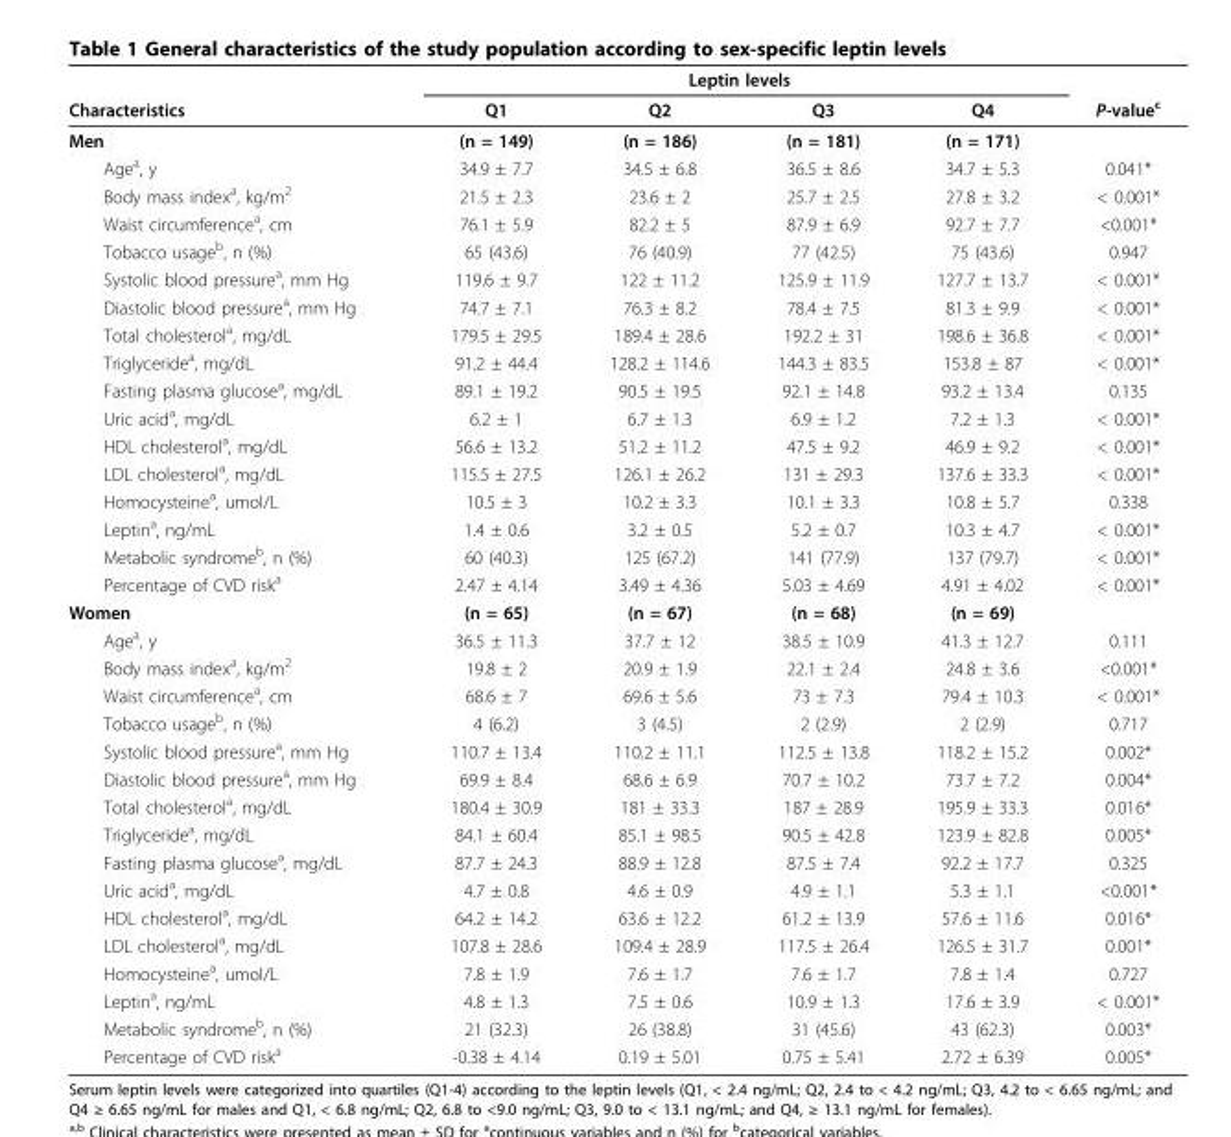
<table><thead><tr><td rowspan="2">Characteristics</td><td colspan="4">Leptin levels</td><td rowspan="2">P-value<sup>c</sup></td></tr><tr><td>Q1</td><td>Q2</td><td>Q3</td><td>Q4</td></tr></thead><tbody><tr><td>Men</td><td>(n = 149)</td><td>(n = 186)</td><td>(n = 181)</td><td>(n = 171)</td><td></td></tr><tr><td>Age<sup>a</sup>, y</td><td>34.9 ± 7.7</td><td>34.5 ± 6.8</td><td>36.5 ± 8.6</td><td>34.7 ± 5.3</td><td>0.041*</td></tr><tr><td>Body mass index<sup>a</sup>, kg/m<sup>2</sup></td><td>21.5 ± 2.3</td><td>23.6 ± 2</td><td>25.7 ± 2.5</td><td>27.8 ± 3.2</td><td>&lt; 0.001*</td></tr><tr><td>Waist circumference<sup>a</sup>, cm</td><td>76.1 ± 5.9</td><td>82.2 ± 5</td><td>87.9 ± 6.9</td><td>92.7 ± 7.7</td><td>&lt;0.001*</td></tr><tr><td>Tobacco usage<sup>b</sup>, n (%)</td><td>65 (43.6)</td><td>76 (40.9)</td><td>77 (42.5)</td><td>75 (43.6)</td><td>0.947</td></tr><tr><td>Systolic blood pressure<sup>a</sup>, mm Hg</td><td>119.6 ± 9.7</td><td>122 ± 11.2</td><td>125.9 ± 11.9</td><td>127.7 ± 13.7</td><td>&lt; 0.001*</td></tr><tr><td>Diastolic blood pressure<sup>a</sup>, mm Hg</td><td>74.7 ± 7.1</td><td>76.3 ± 8.2</td><td>78.4 ± 7.5</td><td>81.3 ± 9.9</td><td>&lt; 0.001*</td></tr><tr><td>Total cholesterol<sup>a</sup>, mg/dL</td><td>179.5 ± 29.5</td><td>189.4 ± 28.6</td><td>192.2 ± 31</td><td>198.6 ± 36.8</td><td>&lt; 0.001*</td></tr><tr><td>Triglyceride<sup>a</sup>, mg/dL</td><td>91.2 ± 44.4</td><td>128.2 ± 114.6</td><td>144.3 ± 83.5</td><td>153.8 ± 87</td><td>&lt; 0.001*</td></tr><tr><td>Fasting plasma glucose<sup>a</sup>, mg/dL</td><td>89.1 ± 19.2</td><td>90.5 ± 19.5</td><td>92.1 ± 14.8</td><td>93.2 ± 13.4</td><td>0.135</td></tr><tr><td>Uric acid<sup>a</sup>, mg/dL</td><td>6.2 ± 1</td><td>6.7 ± 1.3</td><td>6.9 ± 1.2</td><td>7.2 ± 1.3</td><td>&lt; 0.001*</td></tr><tr><td>HDL cholesterol<sup>a</sup>, mg/dL</td><td>56.6 ± 13.2</td><td>51.2 ± 11.2</td><td>47.5 ± 9.2</td><td>46.9 ± 9.2</td><td>&lt; 0.001*</td></tr><tr><td>LDL cholesterol<sup>a</sup>, mg/dL</td><td>115.5 ± 27.5</td><td>126.1 ± 26.2</td><td>131 ± 29.3</td><td>137.6 ± 33.3</td><td>&lt; 0.001*</td></tr><tr><td>Homocysteine<sup>a</sup>, umol/L</td><td>10.5 ± 3</td><td>10.2 ± 3.3</td><td>10.1 ± 3.3</td><td>10.8 ± 5.7</td><td>0.338</td></tr><tr><td>Leptin<sup>a</sup>, ng/mL</td><td>1.4 ± 0.6</td><td>3.2 ± 0.5</td><td>5.2 ± 0.7</td><td>10.3 ± 4.7</td><td>&lt; 0.001*</td></tr><tr><td>Metabolic syndrome<sup>b</sup>, n (%)</td><td>60 (40.3)</td><td>125 (67.2)</td><td>141 (77.9)</td><td>137 (79.7)</td><td>&lt; 0.001*</td></tr><tr><td>Percentage of CVD risk<sup>a</sup></td><td>2.47 ± 4.14</td><td>3.49 ± 4.36</td><td>5.03 ± 4.69</td><td>4.91 ± 4.02</td><td>&lt; 0.001*</td></tr><tr><td>Women</td><td>(n = 65)</td><td>(n = 67)</td><td>(n = 68)</td><td>(n = 69)</td><td></td></tr><tr><td>Age<sup>a</sup>, y</td><td>36.5 ± 11.3</td><td>37.7 ± 12</td><td>38.5 ± 10.9</td><td>41.3 ± 12.7</td><td>0.111</td></tr><tr><td>Body mass index<sup>a</sup>, kg/m<sup>2</sup></td><td>19.8 ± 2</td><td>20.9 ± 1.9</td><td>22.1 ± 2.4</td><td>24.8 ± 3.6</td><td>&lt;0.001*</td></tr><tr><td>Waist circumference<sup>a</sup>, cm</td><td>68.6 ± 7</td><td>69.6 ± 5.6</td><td>73 ± 7.3</td><td>79.4 ± 10.3</td><td>&lt; 0.001*</td></tr><tr><td>Tobacco usage<sup>b</sup>, n (%)</td><td>4 (6.2)</td><td>3 (4.5)</td><td>2 (2.9)</td><td>2 (2.9)</td><td>0.717</td></tr><tr><td>Systolic blood pressure<sup>a</sup>, mm Hg</td><td>110.7 ± 13.4</td><td>110.2 ± 11.1</td><td>112.5 ± 13.8</td><td>118.2 ± 15.2</td><td>0.002*</td></tr><tr><td>Diastolic blood pressure<sup>a</sup>, mm Hg</td><td>69.9 ± 8.4</td><td>68.6 ± 6.9</td><td>70.7 ± 10.2</td><td>73.7 ± 7.2</td><td>0.004*</td></tr><tr><td>Total cholesterol<sup>a</sup>, mg/dL</td><td>180.4 ± 30.9</td><td>181 ± 33.3</td><td>187 ± 28.9</td><td>195.9 ± 33.3</td><td>0.016*</td></tr><tr><td>Triglyceride<sup>a</sup>, mg/dL</td><td>84.1 ± 60.4</td><td>85.1 ± 98.5</td><td>90.5 ± 42.8</td><td>123.9 ± 82.8</td><td>0.005*</td></tr><tr><td>Fasting plasma glucose<sup>a</sup>, mg/dL</td><td>87.7 ± 24.3</td><td>88.9 ± 12.8</td><td>87.5 ± 7.4</td><td>92.2 ± 17.7</td><td>0.325</td></tr><tr><td>Uric acid<sup>a</sup>, mg/dL</td><td>4.7 ± 0.8</td><td>4.6 ± 0.9</td><td>4.9 ± 1.1</td><td>5.3 ± 1.1</td><td>&lt;0.001*</td></tr><tr><td>HDL cholesterol<sup>a</sup>, mg/dL</td><td>64.2 ± 14.2</td><td>63.6 ± 12.2</td><td>61.2 ± 13.9</td><td>57.6 ± 11.6</td><td>0.016*</td></tr><tr><td>LDL cholesterol<sup>a</sup>, mg/dL</td><td>107.8 ± 28.6</td><td>109.4 ± 28.9</td><td>117.5 ± 26.4</td><td>126.5 ± 31.7</td><td>0.001*</td></tr><tr><td>Homocysteine<sup>a</sup>, umol/L</td><td>7.8 ± 1.9</td><td>7.6 ± 1.7</td><td>7.6 ± 1.7</td><td>7.8 ± 1.4</td><td>0.727</td></tr><tr><td>Leptin<sup>a</sup>, ng/mL</td><td>4.8 ± 1.3</td><td>7.5 ± 0.6</td><td>10.9 ± 1.3</td><td>17.6 ± 3.9</td><td>&lt; 0.001*</td></tr><tr><td>Metabolic syndrome<sup>b</sup>, n (%)</td><td>21 (32.3)</td><td>26 (38.8)</td><td>31 (45.6)</td><td>43 (62.3)</td><td>0.003*</td></tr><tr><td>Percentage of CVD risk<sup>a</sup></td><td>-0.38 ± 4.14</td><td>0.19 ± 5.01</td><td>0.75 ± 5.41</td><td>2.72 ± 6.39</td><td>0.005*</td></tr></tbody></table>